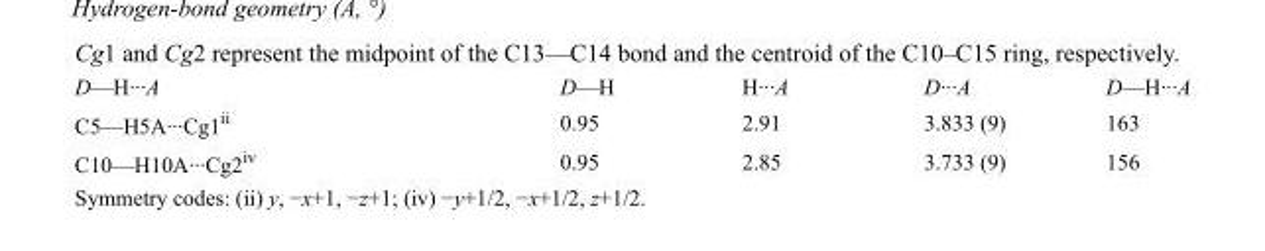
<table><tbody><tr><td>D—H···A</td><td>D—H</td><td>H···A</td><td>D···A</td><td>D—H···A</td></tr><tr><td>C5—H5A···Cg1<sup>ii</sup></td><td>0.95</td><td>2.91</td><td>3.833 (9)</td><td>163</td></tr><tr><td>C10—H10A···Cg2<sup>iv</sup></td><td>0.95</td><td>2.85</td><td>3.733 (9)</td><td>156</td></tr></tbody></table>